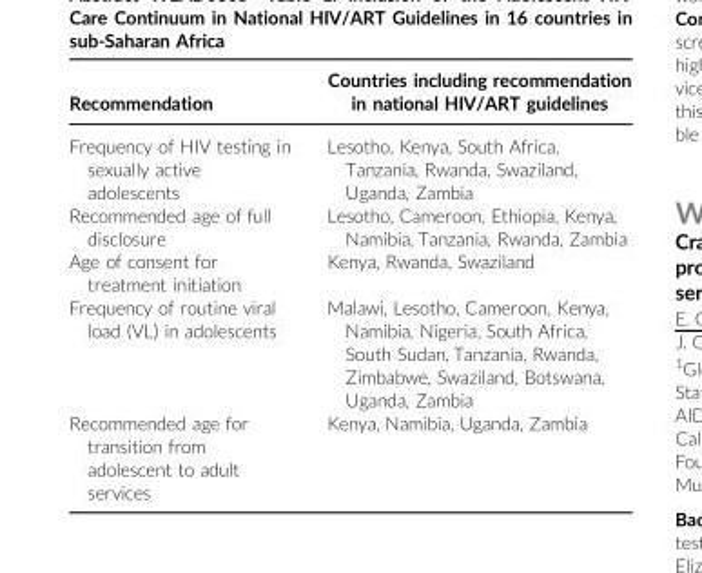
<table><thead><tr><td>Recommendation</td><td>Countries including recommendation in national HIV/ART guidelines</td></tr></thead><tbody><tr><td>Frequency of HIV testing in sexually active adolescents</td><td>Lesotho, Kenya, South Africa, Tanzania, Rwanda, Swaziland, Uganda, Zambia</td></tr><tr><td>Recommended age of full disclosure</td><td>Lesotho, Cameroon, Ethiopia, Kenya, Namibia, Tanzania, Rwanda, Zambia</td></tr><tr><td>Age of consent for treatment initiation</td><td>Kenya, Rwanda, Swaziland</td></tr><tr><td>Frequency of routine viral load (VL) in adolescents</td><td>Malawi, Lesotho, Cameroon, Kenya, Namibia, Nigeria, South Africa, South Sudan, Tanzania, Rwanda, Zimbabwe, Swaziland, Botswana, Uganda, Zambia</td></tr><tr><td>Recommended age for transition from adolescent to adult services</td><td>Kenya, Namibia, Uganda, Zambia</td></tr></tbody></table>